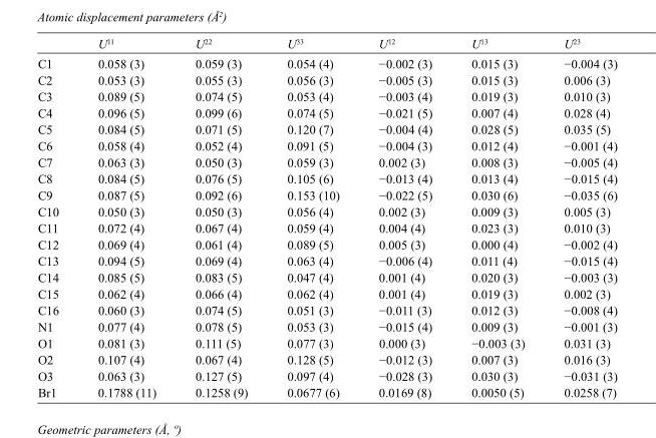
<table><thead><tr><td></td><td>U<sup>11</sup></td><td>U<sup>22</sup></td><td>U<sup>33</sup></td><td>U<sup>12</sup></td><td>U<sup>13</sup></td><td>U<sup>23</sup></td></tr></thead><tbody><tr><td>C1</td><td>0.058 (3)</td><td>0.059 (3)</td><td>0.054 (4)</td><td>−0.002 (3)</td><td>0.015 (3)</td><td>−0.004 (3)</td></tr><tr><td>C2</td><td>0.053 (3)</td><td>0.055 (3)</td><td>0.056 (3)</td><td>−0.005 (3)</td><td>0.015 (3)</td><td>0.006 (3)</td></tr><tr><td>C3</td><td>0.089 (5)</td><td>0.074 (5)</td><td>0.053 (4)</td><td>−0.003 (4)</td><td>0.019 (3)</td><td>0.010 (3)</td></tr><tr><td>C4</td><td>0.096 (5)</td><td>0.099 (6)</td><td>0.074 (5)</td><td>−0.021 (5)</td><td>0.007 (4)</td><td>0.028 (4)</td></tr><tr><td>C5</td><td>0.084 (5)</td><td>0.071 (5)</td><td>0.120 (7)</td><td>−0.004 (4)</td><td>0.028 (5)</td><td>0.035 (5)</td></tr><tr><td>C6</td><td>0.058 (4)</td><td>0.052 (4)</td><td>0.091 (5)</td><td>−0.004 (3)</td><td>0.012 (4)</td><td>−0.001 (4)</td></tr><tr><td>C7</td><td>0.063 (3)</td><td>0.050 (3)</td><td>0.059 (3)</td><td>0.002 (3)</td><td>0.008 (3)</td><td>−0.005 (4)</td></tr><tr><td>C8</td><td>0.084 (5)</td><td>0.076 (5)</td><td>0.105 (6)</td><td>−0.013 (4)</td><td>0.013 (4)</td><td>−0.015 (4)</td></tr><tr><td>C9</td><td>0.087 (5)</td><td>0.092 (6)</td><td>0.153 (10)</td><td>−0.022 (5)</td><td>0.030 (6)</td><td>−0.035 (6)</td></tr><tr><td>C10</td><td>0.050 (3)</td><td>0.050 (3)</td><td>0.056 (4)</td><td>0.002 (3)</td><td>0.009 (3)</td><td>0.005 (3)</td></tr><tr><td>C11</td><td>0.072 (4)</td><td>0.067 (4)</td><td>0.059 (4)</td><td>0.004 (4)</td><td>0.023 (3)</td><td>0.010 (3)</td></tr><tr><td>C12</td><td>0.069 (4)</td><td>0.061 (4)</td><td>0.089 (5)</td><td>0.005 (3)</td><td>0.000 (4)</td><td>−0.002 (4)</td></tr><tr><td>C13</td><td>0.094 (5)</td><td>0.069 (4)</td><td>0.063 (4)</td><td>−0.006 (4)</td><td>0.011 (4)</td><td>−0.015 (4)</td></tr><tr><td>C14</td><td>0.085 (5)</td><td>0.083 (5)</td><td>0.047 (4)</td><td>0.001 (4)</td><td>0.020 (3)</td><td>−0.003 (3)</td></tr><tr><td>C15</td><td>0.062 (4)</td><td>0.066 (4)</td><td>0.062 (4)</td><td>0.001 (4)</td><td>0.019 (3)</td><td>0.002 (3)</td></tr><tr><td>C16</td><td>0.060 (3)</td><td>0.074 (5)</td><td>0.051 (3)</td><td>−0.011 (3)</td><td>0.012 (3)</td><td>−0.008 (4)</td></tr><tr><td>N1</td><td>0.077 (4)</td><td>0.078 (5)</td><td>0.053 (3)</td><td>−0.015 (4)</td><td>0.009 (3)</td><td>−0.001 (3)</td></tr><tr><td>O1</td><td>0.081 (3)</td><td>0.111 (5)</td><td>0.077 (3)</td><td>0.000 (3)</td><td>−0.003 (3)</td><td>0.031 (3)</td></tr><tr><td>O2</td><td>0.107 (4)</td><td>0.067 (4)</td><td>0.128 (5)</td><td>−0.012 (3)</td><td>0.007 (3)</td><td>0.016 (3)</td></tr><tr><td>O3</td><td>0.063 (3)</td><td>0.127 (5)</td><td>0.097 (4)</td><td>−0.028 (3)</td><td>0.030 (3)</td><td>−0.031 (3)</td></tr><tr><td>Br1</td><td>0.1788 (11)</td><td>0.1258 (9)</td><td>0.0677 (6)</td><td>0.0169 (8)</td><td>0.0050 (5)</td><td>0.0258 (7)</td></tr></tbody></table>